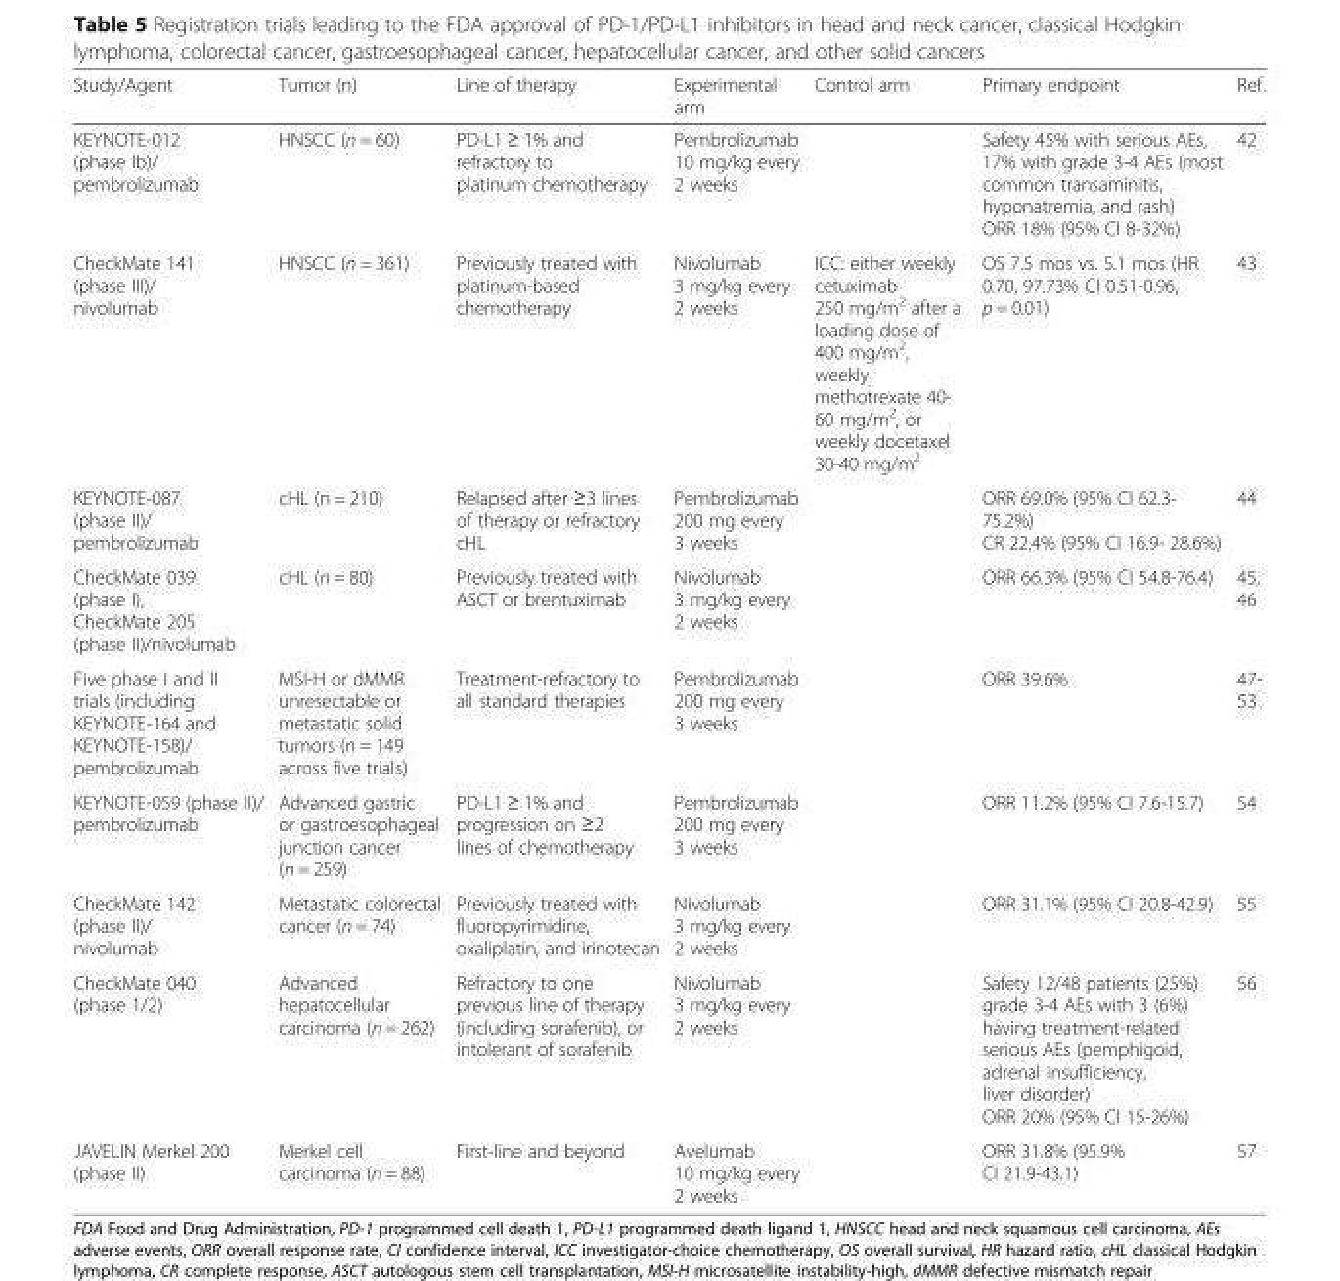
<table><thead><tr><td>Study/Agent</td><td>Tumor (n)</td><td>Line of therapy</td><td>Experimental arm</td><td>Control arm</td><td>Primary endpoint</td><td>Ref.</td></tr></thead><tbody><tr><td>KEYNOTE-012 (phase Ib)/ pembrolizumab</td><td>HNSCC (n = 60)</td><td>PD-L1 ≥ 1% and refractory to platinum chemotherapy</td><td>Pembrolizumab 10 mg/kg every 2 weeks</td><td></td><td>Safety 45% with serious AEs, 17% with grade 3-4 AEs (most common transaminitis, hyponatremia, and rash) ORR 18% (95% CI 8-32%)</td><td>42</td></tr><tr><td>CheckMate 141 (phase III)/ nivolumab</td><td>HNSCC (n = 361)</td><td>Previously treated with platinum-based chemotherapy</td><td>Nivolumab 3 mg/kg every 2 weeks</td><td>ICC: either weekly cetuximab 250 mg/m<sup>2</sup> after a loading dose of 400 mg/m<sup>2</sup>, weekly methotrexate 40- 60 mg/m<sup>2</sup>, or weekly docetaxel 30-40 mg/m<sup>2</sup></td><td>OS 7.5 mos vs. 5.1 mos (HR 0.70, 97.73% CI 0.51-0.96, p = 0.01)</td><td>43</td></tr><tr><td>KEYNOTE-087 (phase II)/ pembrolizumab</td><td>cHL (n = 210)</td><td>Relapsed after ≥3 lines of therapy or refractory cHL</td><td>Pembrolizumab 200 mg every 3 weeks</td><td></td><td>ORR 69.0% (95% CI 62.3- 75.2%) CR 22.4% (95% CI 16.9- 28.6%)</td><td>44</td></tr><tr><td>CheckMate 039 (phase I), CheckMate 205 (phase II)/nivolumab</td><td>cHL (n = 80)</td><td>Previously treated with ASCT or brentuximab</td><td>Nivolumab 3 mg/kg every 2 weeks</td><td></td><td>ORR 66.3% (95% CI 54.8-76.4)</td><td>45, 46</td></tr><tr><td>Five phase I and II trials (including KEYNOTE-164 and KEYNOTE-158)/ pembrolizumab</td><td>MSI-H or dMMR unresectable or metastatic solid tumors (n = 149 across five trials)</td><td>Treatment-refractory to all standard therapies</td><td>Pembrolizumab 200 mg every 3 weeks</td><td></td><td>ORR 39.6%</td><td>47- 53</td></tr><tr><td>KEYNOTE-059 (phase II)/ pembrolizumab</td><td>Advanced gastric or gastroesophageal junction cancer (n = 259)</td><td>PD-L1 ≥ 1% and progression on ≥2 lines of chemotherapy</td><td>Pembrolizumab 200 mg every 3 weeks</td><td></td><td>ORR 11.2% (95% CI 7.6-15.7)</td><td>54</td></tr><tr><td>CheckMate 142 (phase II)/ nivolumab</td><td>Metastatic colorectal cancer (n = 74)</td><td>Previously treated with fluoropyrimidine, oxaliplatin, and irinotecan</td><td>Nivolumab 3 mg/kg every 2 weeks</td><td></td><td>ORR 31.1% (95% CI 20.8-42.9)</td><td>55</td></tr><tr><td>CheckMate 040 (phase 1/2)</td><td>Advanced hepatocellular carcinoma (n = 262)</td><td>Refractory to one previous line of therapy (including sorafenib), or intolerant of sorafenib</td><td>Nivolumab 3 mg/kg every 2 weeks</td><td></td><td>Safety 12/48 patients (25%) grade 3-4 AEs with 3 (6%) having treatment-related serious AEs (pemphigoid, adrenal insufficiency, liver disorder) ORR 20% (95% CI 15-26%)</td><td>56</td></tr><tr><td>JAVELIN Merkel 200 (phase II)</td><td>Merkel cell carcinoma (n = 88)</td><td>First-line and beyond</td><td>Avelumab 10 mg/kg every 2 weeks</td><td></td><td>ORR 31.8% (95.9% CI 21.9-43.1)</td><td>57</td></tr></tbody></table>